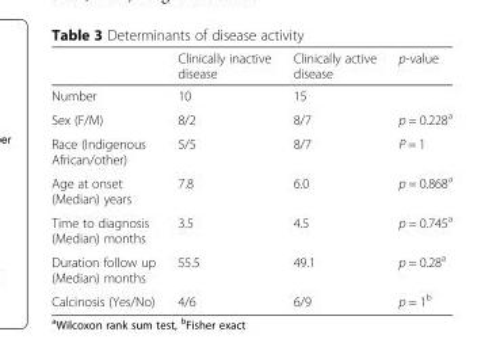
<table><thead><tr><td></td><td>Clinically inactive disease</td><td>Clinically active disease</td><td>p-value</td></tr></thead><tbody><tr><td>Number</td><td>10</td><td>15</td><td></td></tr><tr><td>Sex (F/M)</td><td>8/2</td><td>8/7</td><td>p = 0.228<sup>a</sup></td></tr><tr><td>Race (Indigenous African/other)</td><td>5/5</td><td>8/7</td><td>P = 1</td></tr><tr><td>Age at onset (Median) years</td><td>7.8</td><td>6.0</td><td>p = 0.868<sup>a</sup></td></tr><tr><td>Time to diagnosis (Median) months</td><td>3.5</td><td>4.5</td><td>p = 0.745<sup>a</sup></td></tr><tr><td>Duration follow up (Median) months</td><td>55.5</td><td>49.1</td><td>p = 0.28<sup>a</sup></td></tr><tr><td>Calcinosis (Yes/No)</td><td>4/6</td><td>6/9</td><td>p = 1<sup>b</sup></td></tr></tbody></table>